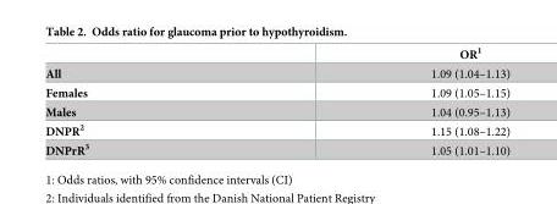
<table><thead><tr><td></td><td>OR<sup>1</sup></td></tr></thead><tbody><tr><td>All</td><td>1.09 (1.04–1.13)</td></tr><tr><td>Females</td><td>1.09 (1.05–1.15)</td></tr><tr><td>Males</td><td>1.04 (0.95–1.13)</td></tr><tr><td>DNPR<sup>2</sup></td><td>1.15 (1.08–1.22)</td></tr><tr><td>DNPrR<sup>3</sup></td><td>1.05 (1.01–1.10)</td></tr></tbody></table>